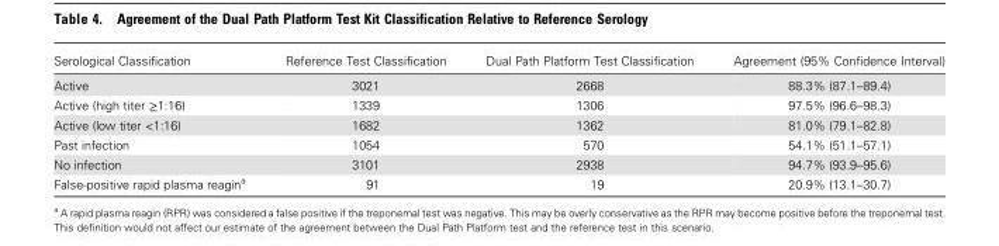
<table><thead><tr><td>Serological Classification</td><td>Reference Test Classification</td><td>Dual Path Platform Test Classification</td><td>Agreement (95% Confidence Interval)</td></tr></thead><tbody><tr><td>Active</td><td>3021</td><td>2668</td><td>88.3% (87.1–89.4)</td></tr><tr><td>Active (high titer ≥1:16)</td><td>1339</td><td>1306</td><td>97.5% (96.6–98.3)</td></tr><tr><td>Active (low titer &lt;1:16)</td><td>1682</td><td>1362</td><td>81.0% (79.1–82.8)</td></tr><tr><td>Past infection</td><td>1054</td><td>570</td><td>54.1% (51.1–57.1)</td></tr><tr><td>No infection</td><td>3101</td><td>2938</td><td>94.7% (93.9–95.6)</td></tr><tr><td>False-positive rapid plasma reagin<sup>a</sup></td><td>91</td><td>19</td><td>20.9% (13.1–30.7)</td></tr></tbody></table>